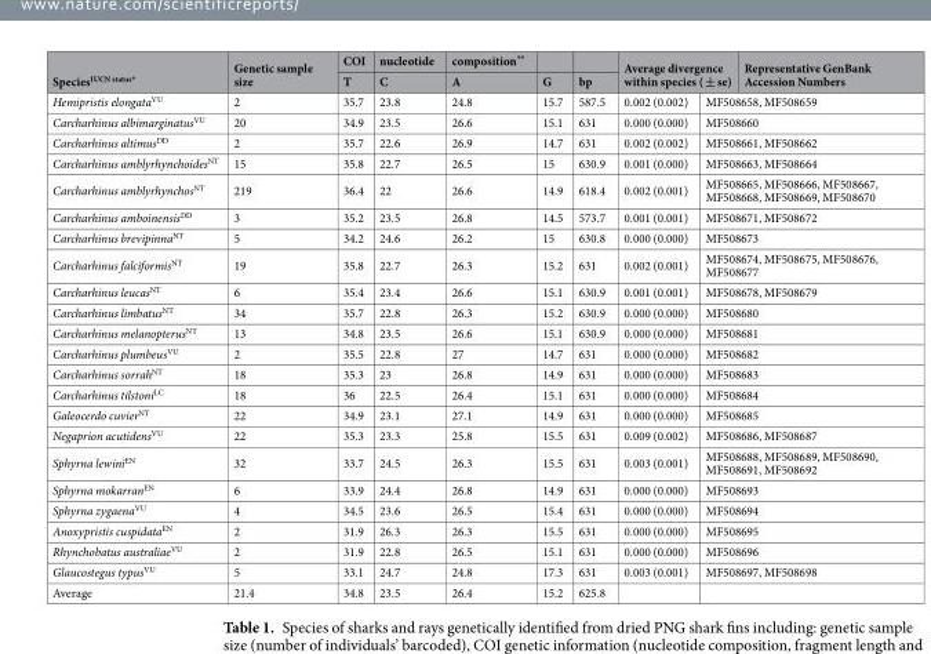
<table><thead><tr><td rowspan="2">Species<sup>IUCN status*</sup></td><td rowspan="2">Genetic sample size</td><td rowspan="2">COI T</td><td rowspan="2">nucleotide C</td><td rowspan="2">composition** A</td><td rowspan="2">G</td><td rowspan="2">bp</td><td rowspan="2" colspan="2">Average divergence within species ( ± se)</td><td rowspan="2">Representative GenBank Accession Numbers</td></tr><tr></tr></thead><tbody><tr><td>Hemipristis elongata<sup>VU</sup></td><td>2</td><td>35.7</td><td>23.8</td><td>24.8</td><td>15.7</td><td>587.5</td><td>0.002 (0.002)</td><td colspan="2">MF508658, MF508659</td></tr><tr><td>Carcharhinus albimarginatus<sup>VU</sup></td><td>20</td><td>34.9</td><td>23.5</td><td>26.6</td><td>15.1</td><td>631</td><td>0.000 (0.000)</td><td colspan="2">MF508660</td></tr><tr><td>Carcharhinus altimus<sup>DD</sup></td><td>2</td><td>35.7</td><td>22.6</td><td>26.9</td><td>14.7</td><td>631</td><td>0.002 (0.002)</td><td colspan="2">MF508661, MF508662</td></tr><tr><td>Carcharhinus amblyrhynchoides<sup>NT</sup></td><td>15</td><td>35.8</td><td>22.7</td><td>26.5</td><td>15</td><td>630.9</td><td>0.001 (0.000)</td><td colspan="2">MF508663, MF508664</td></tr><tr><td>Carcharhinus amblyrhynchos<sup>NT</sup></td><td>219</td><td>36.4</td><td>22</td><td>26.6</td><td>14.9</td><td>618.4</td><td>0.002 (0.001)</td><td colspan="2">MF508665, MF508666, MF508667, MF508668, MF508669, MF508670</td></tr><tr><td>Carcharhinus amboinensis<sup>DD</sup></td><td>3</td><td>35.2</td><td>23.5</td><td>26.8</td><td>14.5</td><td>573.7</td><td>0.001 (0.001)</td><td colspan="2">MF508671, MF508672</td></tr><tr><td>Carcharhinus brevipinna<sup>NT</sup></td><td>5</td><td>34.2</td><td>24.6</td><td>26.2</td><td>15</td><td>630.8</td><td>0.000 (0.000)</td><td colspan="2">MF508673</td></tr><tr><td>Carcharhinus falciformis<sup>NT</sup></td><td>19</td><td>35.8</td><td>22.7</td><td>26.3</td><td>15.2</td><td>631</td><td>0.002 (0.001)</td><td colspan="2">MF508674, MF508675, MF508676, MF508677</td></tr><tr><td>Carcharhinus leucas<sup>NT</sup></td><td>6</td><td>35.4</td><td>23.4</td><td>26.6</td><td>15.1</td><td>630.9</td><td>0.001 (0.001)</td><td colspan="2">MF508678, MF508679</td></tr><tr><td>Carcharhinus limbatus<sup>NT</sup></td><td>34</td><td>35.7</td><td>22.8</td><td>26.3</td><td>15.2</td><td>630.9</td><td>0.000 (0.000)</td><td colspan="2">MF508680</td></tr><tr><td>Carcharhinus melanopterus<sup>NT</sup></td><td>13</td><td>34.8</td><td>23.5</td><td>26.6</td><td>15.1</td><td>630.9</td><td>0.000 (0.000)</td><td colspan="2">MF508681</td></tr><tr><td>Carcharhinus plumbeus<sup>VU</sup></td><td>2</td><td>35.5</td><td>22.8</td><td>27</td><td>14.7</td><td>631</td><td>0.000 (0.000)</td><td colspan="2">MF508682</td></tr><tr><td>Carcharhinus sorrah<sup>NT</sup></td><td>18</td><td>35.3</td><td>23</td><td>26.8</td><td>14.9</td><td>631</td><td>0.000 (0.000)</td><td colspan="2">MF508683</td></tr><tr><td>Carcharhinus tilstoni<sup>LC</sup></td><td>18</td><td>36</td><td>22.5</td><td>26.4</td><td>15.1</td><td>631</td><td>0.000 (0.000)</td><td colspan="2">MF508684</td></tr><tr><td>Galeocerdo cuvier<sup>NT</sup></td><td>22</td><td>34.9</td><td>23.1</td><td>27.1</td><td>14.9</td><td>631</td><td>0.000 (0.000)</td><td colspan="2">MF508685</td></tr><tr><td>Negaprion acutidens<sup>VU</sup></td><td>22</td><td>35.3</td><td>23.3</td><td>25.8</td><td>15.5</td><td>631</td><td>0.009 (0.002)</td><td colspan="2">MF508686, MF508687</td></tr><tr><td>Sphyrna lewini<sup>EN</sup></td><td>32</td><td>33.7</td><td>24.5</td><td>26.3</td><td>15.5</td><td>631</td><td>0.003 (0.001)</td><td colspan="2">MF508688, MF508689, MF508690, MF508691, MF508692</td></tr><tr><td>Sphyrna mokarran<sup>EN</sup></td><td>6</td><td>33.9</td><td>24.4</td><td>26.8</td><td>14.9</td><td>631</td><td>0.000 (0.000)</td><td colspan="2">MF508693</td></tr><tr><td>Sphyrna zygaena<sup>VU</sup></td><td>4</td><td>34.5</td><td>23.6</td><td>26.5</td><td>15.4</td><td>631</td><td>0.000 (0.000)</td><td colspan="2">MF508694</td></tr><tr><td>Anoxypristis cuspidata<sup>EN</sup></td><td>2</td><td>31.9</td><td>26.3</td><td>26.3</td><td>15.5</td><td>631</td><td>0.000 (0.000)</td><td colspan="2">MF508695</td></tr><tr><td>Rhynchobatus australiae<sup>VU</sup></td><td>2</td><td>31.9</td><td>22.8</td><td>26.5</td><td>15.1</td><td>631</td><td>0.000 (0.000)</td><td colspan="2">MF508696</td></tr><tr><td>Glaucostegus typus<sup>VU</sup></td><td>5</td><td>33.1</td><td>24.7</td><td>24.8</td><td>17.3</td><td>631</td><td>0.003 (0.001)</td><td colspan="2">MF508697, MF508698</td></tr><tr><td>Average</td><td>21.4</td><td>34.8</td><td>23.5</td><td>26.4</td><td>15.2</td><td>625.8</td><td></td><td colspan="2"></td></tr></tbody></table>